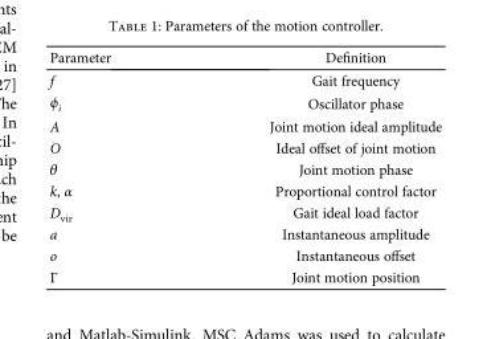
<table><thead><tr><td>Parameter</td><td>Definition</td></tr></thead><tbody><tr><td>f</td><td>Gait frequency</td></tr><tr><td>ϕ<sub>i</sub></td><td>Oscillator phase</td></tr><tr><td>A</td><td>Joint motion ideal amplitude</td></tr><tr><td>O</td><td>Ideal offset of joint motion</td></tr><tr><td>θ</td><td>Joint motion phase</td></tr><tr><td>k, α</td><td>Proportional control factor</td></tr><tr><td>D<sub>vir</sub></td><td>Gait ideal load factor</td></tr><tr><td>a</td><td>Instantaneous amplitude</td></tr><tr><td>o</td><td>Instantaneous offset</td></tr><tr><td>Γ</td><td>Joint motion position</td></tr></tbody></table>